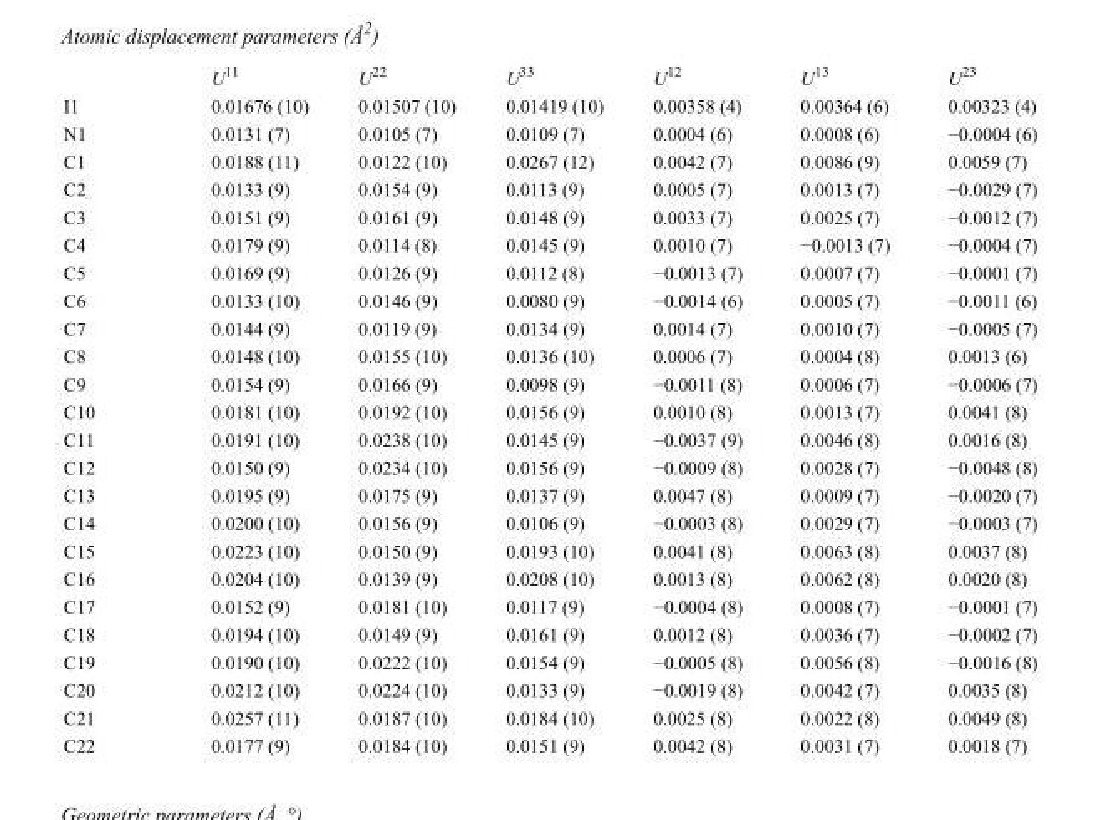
<table><thead><tr><td></td><td>U<sup>11</sup></td><td>U<sup>22</sup></td><td>U<sup>33</sup></td><td>U<sup>12</sup></td><td>U<sup>13</sup></td><td>U<sup>23</sup></td></tr></thead><tbody><tr><td>I1</td><td>0.01676 (10)</td><td>0.01507 (10)</td><td>0.01419 (10)</td><td>0.00358 (4)</td><td>0.00364 (6)</td><td>0.00323 (4)</td></tr><tr><td>N1</td><td>0.0131 (7)</td><td>0.0105 (7)</td><td>0.0109 (7)</td><td>0.0004 (6)</td><td>0.0008 (6)</td><td>−0.0004 (6)</td></tr><tr><td>C1</td><td>0.0188 (11)</td><td>0.0122 (10)</td><td>0.0267 (12)</td><td>0.0042 (7)</td><td>0.0086 (9)</td><td>0.0059 (7)</td></tr><tr><td>C2</td><td>0.0133 (9)</td><td>0.0154 (9)</td><td>0.0113 (9)</td><td>0.0005 (7)</td><td>0.0013 (7)</td><td>−0.0029 (7)</td></tr><tr><td>C3</td><td>0.0151 (9)</td><td>0.0161 (9)</td><td>0.0148 (9)</td><td>0.0033 (7)</td><td>0.0025 (7)</td><td>−0.0012 (7)</td></tr><tr><td>C4</td><td>0.0179 (9)</td><td>0.0114 (8)</td><td>0.0145 (9)</td><td>0.0010 (7)</td><td>−0.0013 (7)</td><td>−0.0004 (7)</td></tr><tr><td>C5</td><td>0.0169 (9)</td><td>0.0126 (9)</td><td>0.0112 (8)</td><td>−0.0013 (7)</td><td>0.0007 (7)</td><td>−0.0001 (7)</td></tr><tr><td>C6</td><td>0.0133 (10)</td><td>0.0146 (9)</td><td>0.0080 (9)</td><td>−0.0014 (6)</td><td>0.0005 (7)</td><td>−0.0011 (6)</td></tr><tr><td>C7</td><td>0.0144 (9)</td><td>0.0119 (9)</td><td>0.0134 (9)</td><td>0.0014 (7)</td><td>0.0010 (7)</td><td>−0.0005 (7)</td></tr><tr><td>C8</td><td>0.0148 (10)</td><td>0.0155 (10)</td><td>0.0136 (10)</td><td>0.0006 (7)</td><td>0.0004 (8)</td><td>0.0013 (6)</td></tr><tr><td>C9</td><td>0.0154 (9)</td><td>0.0166 (9)</td><td>0.0098 (9)</td><td>−0.0011 (8)</td><td>0.0006 (7)</td><td>−0.0006 (7)</td></tr><tr><td>C10</td><td>0.0181 (10)</td><td>0.0192 (10)</td><td>0.0156 (9)</td><td>0.0010 (8)</td><td>0.0013 (7)</td><td>0.0041 (8)</td></tr><tr><td>C11</td><td>0.0191 (10)</td><td>0.0238 (10)</td><td>0.0145 (9)</td><td>−0.0037 (9)</td><td>0.0046 (8)</td><td>0.0016 (8)</td></tr><tr><td>C12</td><td>0.0150 (9)</td><td>0.0234 (10)</td><td>0.0156 (9)</td><td>−0.0009 (8)</td><td>0.0028 (7)</td><td>−0.0048 (8)</td></tr><tr><td>C13</td><td>0.0195 (9)</td><td>0.0175 (9)</td><td>0.0137 (9)</td><td>0.0047 (8)</td><td>0.0009 (7)</td><td>−0.0020 (7)</td></tr><tr><td>C14</td><td>0.0200 (10)</td><td>0.0156 (9)</td><td>0.0106 (9)</td><td>−0.0003 (8)</td><td>0.0029 (7)</td><td>−0.0003 (7)</td></tr><tr><td>C15</td><td>0.0223 (10)</td><td>0.0150 (9)</td><td>0.0193 (10)</td><td>0.0041 (8)</td><td>0.0063 (8)</td><td>0.0037 (8)</td></tr><tr><td>C16</td><td>0.0204 (10)</td><td>0.0139 (9)</td><td>0.0208 (10)</td><td>0.0013 (8)</td><td>0.0062 (8)</td><td>0.0020 (8)</td></tr><tr><td>C17</td><td>0.0152 (9)</td><td>0.0181 (10)</td><td>0.0117 (9)</td><td>−0.0004 (8)</td><td>0.0008 (7)</td><td>−0.0001 (7)</td></tr><tr><td>C18</td><td>0.0194 (10)</td><td>0.0149 (9)</td><td>0.0161 (9)</td><td>0.0012 (8)</td><td>0.0036 (7)</td><td>−0.0002 (7)</td></tr><tr><td>C19</td><td>0.0190 (10)</td><td>0.0222 (10)</td><td>0.0154 (9)</td><td>−0.0005 (8)</td><td>0.0056 (8)</td><td>−0.0016 (8)</td></tr><tr><td>C20</td><td>0.0212 (10)</td><td>0.0224 (10)</td><td>0.0133 (9)</td><td>−0.0019 (8)</td><td>0.0042 (7)</td><td>0.0035 (8)</td></tr><tr><td>C21</td><td>0.0257 (11)</td><td>0.0187 (10)</td><td>0.0184 (10)</td><td>0.0025 (8)</td><td>0.0022 (8)</td><td>0.0049 (8)</td></tr><tr><td>C22</td><td>0.0177 (9)</td><td>0.0184 (10)</td><td>0.0151 (9)</td><td>0.0042 (8)</td><td>0.0031 (7)</td><td>0.0018 (7)</td></tr></tbody></table>